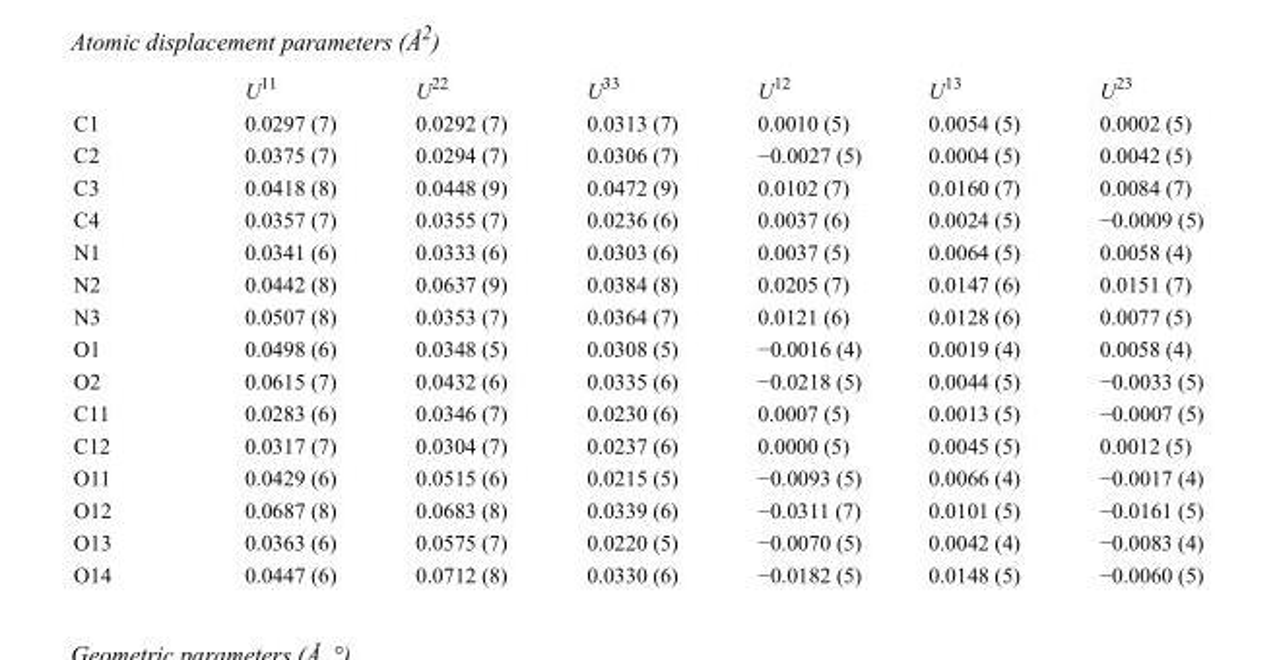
<table><thead><tr><td></td><td>U<sup>11</sup></td><td>U<sup>22</sup></td><td>U<sup>33</sup></td><td>U<sup>12</sup></td><td>U<sup>13</sup></td><td>U<sup>23</sup></td></tr></thead><tbody><tr><td>C1</td><td>0.0297 (7)</td><td>0.0292 (7)</td><td>0.0313 (7)</td><td>0.0010 (5)</td><td>0.0054 (5)</td><td>0.0002 (5)</td></tr><tr><td>C2</td><td>0.0375 (7)</td><td>0.0294 (7)</td><td>0.0306 (7)</td><td>−0.0027 (5)</td><td>0.0004 (5)</td><td>0.0042 (5)</td></tr><tr><td>C3</td><td>0.0418 (8)</td><td>0.0448 (9)</td><td>0.0472 (9)</td><td>0.0102 (7)</td><td>0.0160 (7)</td><td>0.0084 (7)</td></tr><tr><td>C4</td><td>0.0357 (7)</td><td>0.0355 (7)</td><td>0.0236 (6)</td><td>0.0037 (6)</td><td>0.0024 (5)</td><td>−0.0009 (5)</td></tr><tr><td>N1</td><td>0.0341 (6)</td><td>0.0333 (6)</td><td>0.0303 (6)</td><td>0.0037 (5)</td><td>0.0064 (5)</td><td>0.0058 (4)</td></tr><tr><td>N2</td><td>0.0442 (8)</td><td>0.0637 (9)</td><td>0.0384 (8)</td><td>0.0205 (7)</td><td>0.0147 (6)</td><td>0.0151 (7)</td></tr><tr><td>N3</td><td>0.0507 (8)</td><td>0.0353 (7)</td><td>0.0364 (7)</td><td>0.0121 (6)</td><td>0.0128 (6)</td><td>0.0077 (5)</td></tr><tr><td>O1</td><td>0.0498 (6)</td><td>0.0348 (5)</td><td>0.0308 (5)</td><td>−0.0016 (4)</td><td>0.0019 (4)</td><td>0.0058 (4)</td></tr><tr><td>O2</td><td>0.0615 (7)</td><td>0.0432 (6)</td><td>0.0335 (6)</td><td>−0.0218 (5)</td><td>0.0044 (5)</td><td>−0.0033 (5)</td></tr><tr><td>C11</td><td>0.0283 (6)</td><td>0.0346 (7)</td><td>0.0230 (6)</td><td>0.0007 (5)</td><td>0.0013 (5)</td><td>−0.0007 (5)</td></tr><tr><td>C12</td><td>0.0317 (7)</td><td>0.0304 (7)</td><td>0.0237 (6)</td><td>0.0000 (5)</td><td>0.0045 (5)</td><td>0.0012 (5)</td></tr><tr><td>O11</td><td>0.0429 (6)</td><td>0.0515 (6)</td><td>0.0215 (5)</td><td>−0.0093 (5)</td><td>0.0066 (4)</td><td>−0.0017 (4)</td></tr><tr><td>O12</td><td>0.0687 (8)</td><td>0.0683 (8)</td><td>0.0339 (6)</td><td>−0.0311 (7)</td><td>0.0101 (5)</td><td>−0.0161 (5)</td></tr><tr><td>O13</td><td>0.0363 (6)</td><td>0.0575 (7)</td><td>0.0220 (5)</td><td>−0.0070 (5)</td><td>0.0042 (4)</td><td>−0.0083 (4)</td></tr><tr><td>O14</td><td>0.0447 (6)</td><td>0.0712 (8)</td><td>0.0330 (6)</td><td>−0.0182 (5)</td><td>0.0148 (5)</td><td>−0.0060 (5)</td></tr></tbody></table>